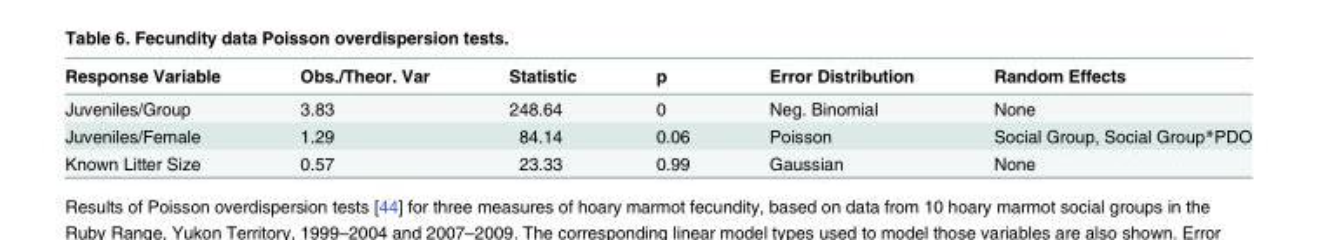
<table><thead><tr><td>Response Variable</td><td>Obs./Theor. Var</td><td>Statistic</td><td>p</td><td>Error Distribution</td><td>Random Effects</td></tr></thead><tbody><tr><td>Juveniles/Group</td><td>3.83</td><td>248.64</td><td>0</td><td>Neg. Binomial</td><td>None</td></tr><tr><td>Juveniles/Female</td><td>1.29</td><td>84.14</td><td>0.06</td><td>Poisson</td><td>Social Group, Social Group*PDO</td></tr><tr><td>Known Litter Size</td><td>0.57</td><td>23.33</td><td>0.99</td><td>Gaussian</td><td>None</td></tr></tbody></table>